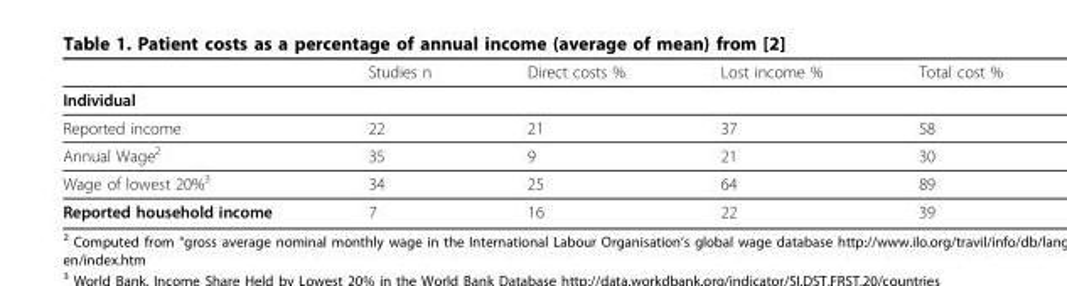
<table><thead><tr><td></td><td>Studies n</td><td>Direct costs %</td><td>Lost income %</td><td>Total cost %</td></tr></thead><tbody><tr><td colspan="5">Individual</td></tr><tr><td>Reported income</td><td>22</td><td>21</td><td>37</td><td>58</td></tr><tr><td>Annual Wage<sup>2</sup></td><td>35</td><td>9</td><td>21</td><td>30</td></tr><tr><td>Wage of lowest 20%<sup>3</sup></td><td>34</td><td>25</td><td>64</td><td>89</td></tr><tr><td>Reported household income</td><td>7</td><td>16</td><td>22</td><td>39</td></tr></tbody></table>